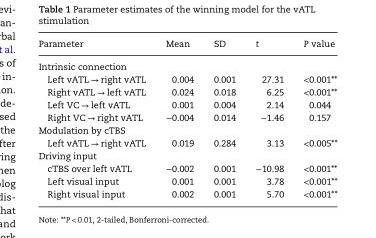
<table><thead><tr><td>Parameter</td><td>Mean</td><td>SD</td><td>t</td><td>P value</td></tr></thead><tbody><tr><td colspan="5">Intrinsic connection</td></tr><tr><td>Left vATL → right vATL</td><td>0.004</td><td>0.001</td><td>27.31</td><td>&lt;0.001**</td></tr><tr><td>Right vATL → left vATL</td><td>0.024</td><td>0.018</td><td>6.25</td><td>&lt;0.001**</td></tr><tr><td>Left VC → left vATL</td><td>0.001</td><td>0.004</td><td>2.14</td><td>0.044</td></tr><tr><td>Right VC → right vATL</td><td>−0.004</td><td>0.014</td><td>−1.46</td><td>0.157</td></tr><tr><td colspan="5">Modulation by cTBS</td></tr><tr><td>Left vATL → right vATL</td><td>0.019</td><td>0.284</td><td>3.13</td><td>&lt;0.005**</td></tr><tr><td colspan="5">Driving input</td></tr><tr><td>cTBS over left vATL</td><td>−0.002</td><td>0.001</td><td>−10.98</td><td>&lt;0.001**</td></tr><tr><td>Left visual input</td><td>0.001</td><td>0.001</td><td>3.78</td><td>&lt;0.001**</td></tr><tr><td>Right visual input</td><td>0.002</td><td>0.001</td><td>5.70</td><td>&lt;0.001**</td></tr></tbody></table>